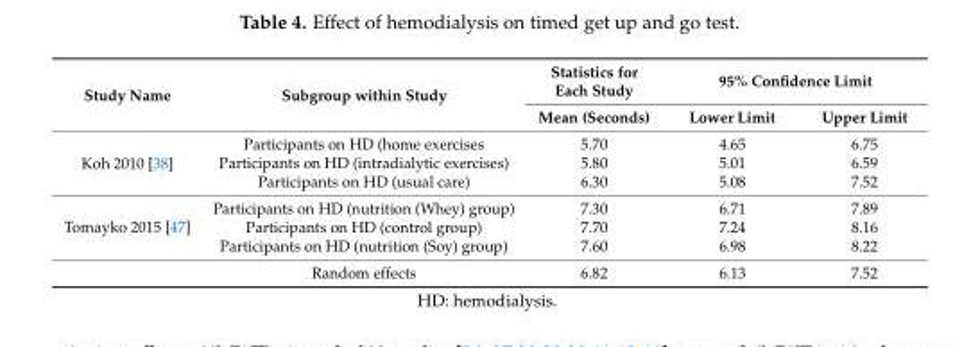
<table><thead><tr><td rowspan="2">Study Name</td><td rowspan="2">Subgroup within Study</td><td rowspan="2">Statistics for Each Study Mean (Seconds)</td><td colspan="2">95% Confidence Limit</td></tr><tr><td>Lower Limit</td><td>Upper Limit</td></tr></thead><tbody><tr><td rowspan="3">Koh 2010 [38]</td><td>Participants on HD (home exercises</td><td>5.70</td><td>4.65</td><td>6.75</td></tr><tr><td>Participants on HD (intradialytic exercises)</td><td>5.80</td><td>5.01</td><td>6.59</td></tr><tr><td>Participants on HD (usual care)</td><td>6.30</td><td>5.08</td><td>7.52</td></tr><tr><td rowspan="4">Tomayko 2015 [47]</td><td>Participants on HD (nutrition (Whey) group)</td><td>7.30</td><td>6.71</td><td>7.89</td></tr><tr><td>Participants on HD (control group)</td><td>7.70</td><td>7.24</td><td>8.16</td></tr><tr><td>Participants on HD (nutrition (Soy) group)</td><td>7.60</td><td>6.98</td><td>8.22</td></tr><tr><td>Random effects</td><td>6.82</td><td>6.13</td><td>7.52</td></tr></tbody></table>